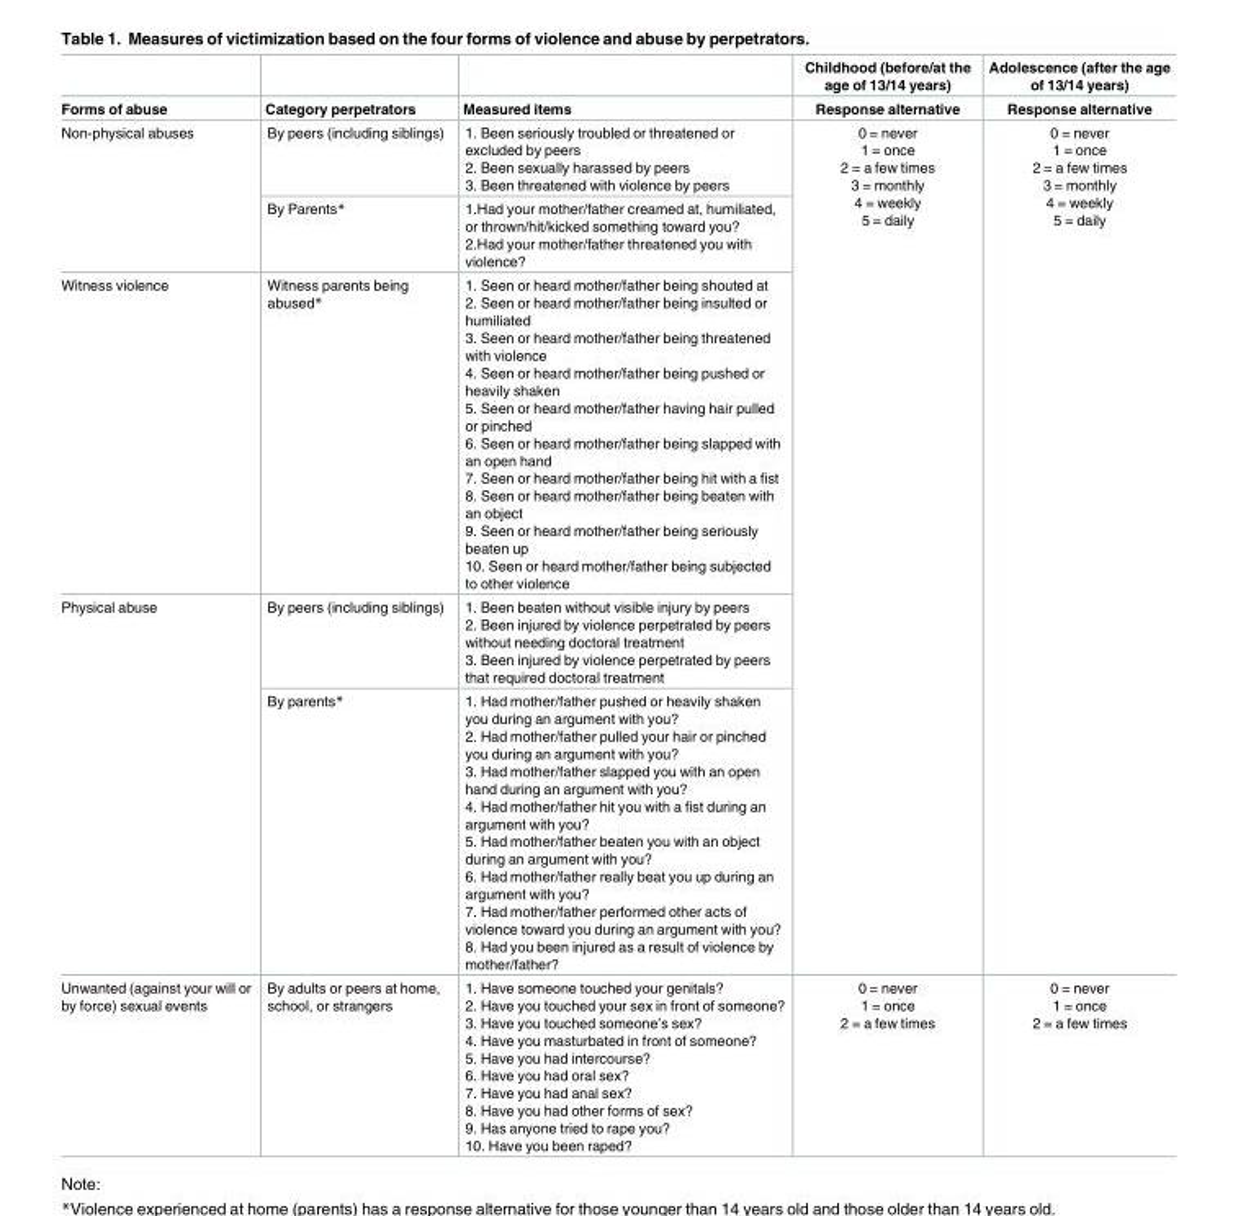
<table><thead><tr><td rowspan="2">Forms of abuse</td><td rowspan="2">Category perpetrators</td><td rowspan="2">Measured items</td><td rowspan="2">Childhood (before/at the age of 13/14 years) Response alternative</td><td rowspan="2">Adolescence (after the age of 13/14 years) Response alternative</td></tr><tr></tr></thead><tbody><tr><td rowspan="2">Non-physical abuses</td><td>By peers (including siblings)</td><td>1. Been seriously troubled or threatened or excluded by peers 2. Been sexually harassed by peers 3. Been threatened with violence by peers</td><td rowspan="5">0 = never 1 = once 2 = a few times 3 = monthly 4 = weekly 5 = daily</td><td rowspan="5">0 = never 1 = once 2 = a few times 3 = monthly 4 = weekly 5 = daily</td></tr><tr><td>By Parents*</td><td>1.Had your mother/father creamed at, humiliated, or thrown/hit/kicked something toward you? 2.Had your mother/father threatened you with violence?</td></tr><tr><td>Witness violence</td><td>Witness parents being abused*</td><td>1. Seen or heard mother/father being shouted at 2. Seen or heard mother/father being insulted or humiliated 3. Seen or heard mother/father being threatened with violence 4. Seen or heard mother/father being pushed or heavily shaken 5. Seen or heard mother/father having hair pulled or pinched 6. Seen or heard mother/father being slapped with an open hand 7. Seen or heard mother/father being hit with a fist 8. Seen or heard mother/father being beaten with an object 9. Seen or heard mother/father being seriously beaten up 10. Seen or heard mother/father being subjected to other violence</td></tr><tr><td rowspan="2">Physical abuse</td><td>By peers (including siblings)</td><td>1. Been beaten without visible injury by peers 2. Been injured by violence perpetrated by peers without needing doctoral treatment 3. Been injured by violence perpetrated by peers that required doctoral treatment</td></tr><tr><td>By parents*</td><td>1. Had mother/father pushed or heavily shaken you during an argument with you? 2. Had mother/father pulled your hair or pinched you during an argument with you? 3. Had mother/father slapped you with an open hand during an argument with you? 4. Had mother/father hit you with a fist during an argument with you? 5. Had mother/father beaten you with an object during an argument with you? 6. Had mother/father really beat you up during an argument with you? 7. Had mother/father performed other acts of violence toward you during an argument with you? 8. Had you been injured as a result of violence by mother/father?</td></tr><tr><td>Unwanted (against your will or by force) sexual events</td><td>By adults or peers at home, school, or strangers</td><td>1. Have someone touched your genitals? 2. Have you touched your sex in front of someone? 3. Have you touched someone’s sex? 4. Have you masturbated in front of someone? 5. Have you had intercourse? 6. Have you had oral sex? 7. Have you had anal sex? 8. Have you had other forms of sex? 9. Has anyone tried to rape you? 10. Have you been raped?</td><td>0 = never 1 = once 2 = a few times</td><td>0 = never 1 = once 2 = a few times</td></tr></tbody></table>